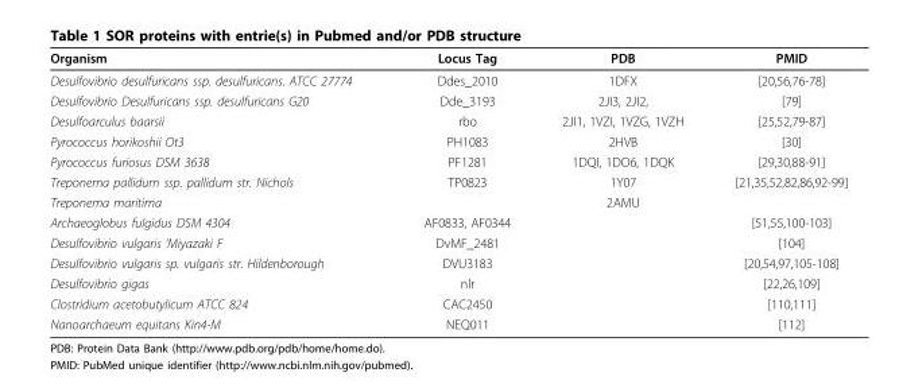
<table><thead><tr><td>Organism</td><td>Locus Tag</td><td>PDB</td><td>PMID</td></tr></thead><tbody><tr><td>Desulfovibrio desulfuricans ssp. desulfuricans. ATCC 27774</td><td>Ddes_2010</td><td>1DFX</td><td>[20,56,76-78]</td></tr><tr><td>Desulfovibrio Desulfuricans ssp. desulfuricans G20</td><td>Dde_3193</td><td>2JI3, 2JI2,</td><td>[79]</td></tr><tr><td>Desulfoarculus baarsii</td><td>rbo</td><td>2JI1, 1VZI, 1VZG, 1VZH</td><td>[25,52,79-87]</td></tr><tr><td>Pyrococcus horikoshii Ot3</td><td>PH1083</td><td>2HVB</td><td>[30]</td></tr><tr><td>Pyrococcus furiosus DSM 3638</td><td>PF1281</td><td>1DQI, 1DO6, 1DQK</td><td>[29,30,88-91]</td></tr><tr><td>Treponema pallidum ssp. pallidum str. Nichols</td><td>TP0823</td><td>1Y07</td><td>[21,35,52,82,86,92-99]</td></tr><tr><td>Treponema maritima</td><td></td><td>2AMU</td><td></td></tr><tr><td>Archaeoglobus fulgidus DSM 4304</td><td>AF0833, AF0344</td><td></td><td>[51,55,100-103]</td></tr><tr><td>Desulfovibrio vulgaris ‘Miyazaki F</td><td>DvMF_2481</td><td></td><td>[104]</td></tr><tr><td>Desulfovibrio vulgaris sp. vulgaris str. Hildenborough</td><td>DVU3183</td><td></td><td>[20,54,97,105-108]</td></tr><tr><td>Desulfovibrio gigas</td><td>nlr</td><td></td><td>[22,26,109]</td></tr><tr><td>Clostridium acetobutylicum ATCC 824</td><td>CAC2450</td><td></td><td>[110,111]</td></tr><tr><td>Nanoarchaeum equitans Kin4-M</td><td>NEQ011</td><td></td><td>[112]</td></tr></tbody></table>